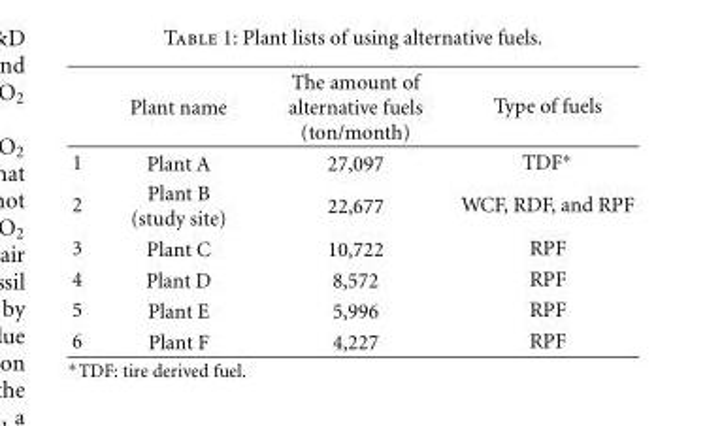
<table><thead><tr><td></td><td>Plant name</td><td>The amount of alternative fuels (ton/month)</td><td>Type of fuels</td></tr></thead><tbody><tr><td>1</td><td>Plant A</td><td>27,097</td><td>TDF∗</td></tr><tr><td>2</td><td>Plant B (study site)</td><td>22,677</td><td>WCF, RDF, and RPF</td></tr><tr><td>3</td><td>Plant C</td><td>10,722</td><td>RPF</td></tr><tr><td>4</td><td>Plant D</td><td>8,572</td><td>RPF</td></tr><tr><td>5</td><td>Plant E</td><td>5,996</td><td>RPF</td></tr><tr><td>6</td><td>Plant F</td><td>4,227</td><td>RPF</td></tr></tbody></table>